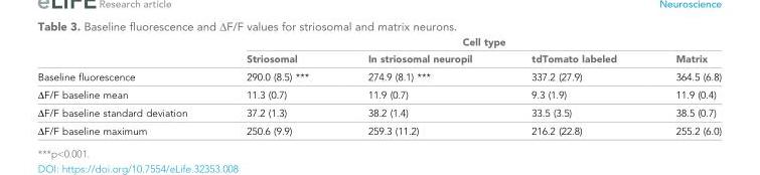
<table><thead><tr><td rowspan="2"></td><td colspan="4">Cell type</td></tr><tr><td>Striosomal</td><td>In striosomal neuropil</td><td>tdTomato labeled</td><td>Matrix</td></tr></thead><tbody><tr><td>Baseline fluorescence</td><td>290.0 (8.5) ***</td><td>274.9 (8.1) ***</td><td>337.2 (27.9)</td><td>364.5 (6.8)</td></tr><tr><td>ΔF/F baseline mean</td><td>11.3 (0.7)</td><td>11.9 (0.7)</td><td>9.3 (1.9)</td><td>11.9 (0.4)</td></tr><tr><td>ΔF/F baseline standard deviation</td><td>37.2 (1.3)</td><td>38.2 (1.4)</td><td>33.5 (3.5)</td><td>38.5 (0.7)</td></tr><tr><td>ΔF/F baseline maximum</td><td>250.6 (9.9)</td><td>259.3 (11.2)</td><td>216.2 (22.8)</td><td>255.2 (6.0)</td></tr></tbody></table>